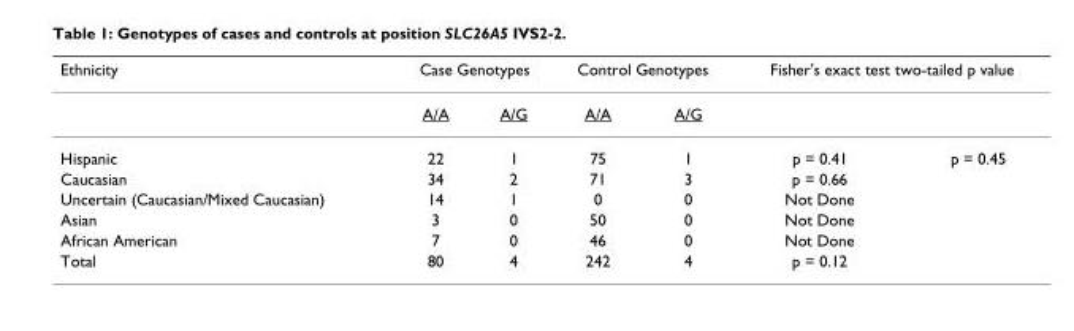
<table><thead><tr><td rowspan="2">Ethnicity</td><td colspan="2">Case Genotypes</td><td colspan="2">Control Genotypes</td><td colspan="2">Fisher&#x27;s exact test two-tailed p value</td></tr><tr><td>A/A</td><td>A/G</td><td>A/A</td><td>A/G</td><td></td><td></td></tr></thead><tbody><tr><td>Hispanic</td><td>22</td><td>1</td><td>75</td><td>1</td><td>p = 0.41</td><td>p = 0.45</td></tr><tr><td>Caucasian</td><td>34</td><td>2</td><td>71</td><td>3</td><td>p = 0.66</td><td></td></tr><tr><td>Uncertain (Caucasian/Mixed Caucasian)</td><td>14</td><td>1</td><td>0</td><td>0</td><td>Not Done</td><td></td></tr><tr><td>Asian</td><td>3</td><td>0</td><td>50</td><td>0</td><td>Not Done</td><td></td></tr><tr><td>African American</td><td>7</td><td>0</td><td>46</td><td>0</td><td>Not Done</td><td></td></tr><tr><td>Total</td><td>80</td><td>4</td><td>242</td><td>4</td><td>p = 0.12</td><td></td></tr></tbody></table>